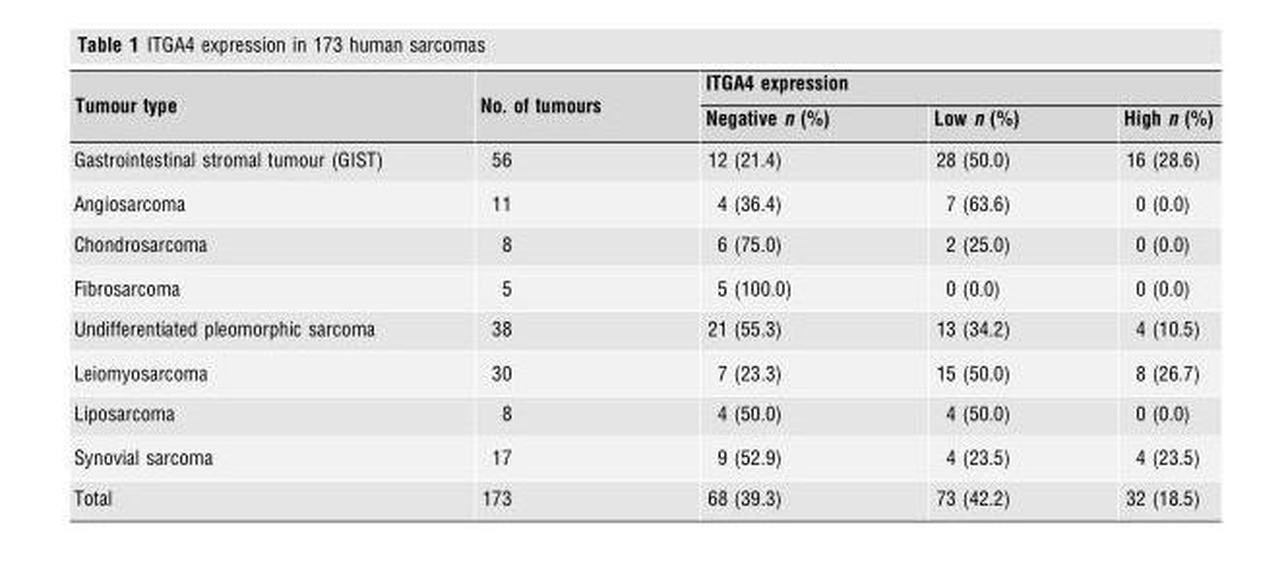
<table><thead><tr><td rowspan="2">Tumour type</td><td rowspan="2">No. of tumours</td><td colspan="3">ITGA4 expression</td></tr><tr><td>Negative n (%)</td><td>Low n (%)</td><td>High n (%)</td></tr></thead><tbody><tr><td>Gastrointestinal stromal tumour (GIST)</td><td>56</td><td>12 (21.4)</td><td>28 (50.0)</td><td>16 (28.6)</td></tr><tr><td>Angiosarcoma</td><td>11</td><td>4 (36.4)</td><td>7 (63.6)</td><td>0 (0.0)</td></tr><tr><td>Chondrosarcoma</td><td>8</td><td>6 (75.0)</td><td>2 (25.0)</td><td>0 (0.0)</td></tr><tr><td>Fibrosarcoma</td><td>5</td><td>5 (100.0)</td><td>0 (0.0)</td><td>0 (0.0)</td></tr><tr><td>Undifferentiated pleomorphic sarcoma</td><td>38</td><td>21 (55.3)</td><td>13 (34.2)</td><td>4 (10.5)</td></tr><tr><td>Leiomyosarcoma</td><td>30</td><td>7 (23.3)</td><td>15 (50.0)</td><td>8 (26.7)</td></tr><tr><td>Liposarcoma</td><td>8</td><td>4 (50.0)</td><td>4 (50.0)</td><td>0 (0.0)</td></tr><tr><td>Synovial sarcoma</td><td>17</td><td>9 (52.9)</td><td>4 (23.5)</td><td>4 (23.5)</td></tr><tr><td>Total</td><td>173</td><td>68 (39.3)</td><td>73 (42.2)</td><td>32 (18.5)</td></tr></tbody></table>